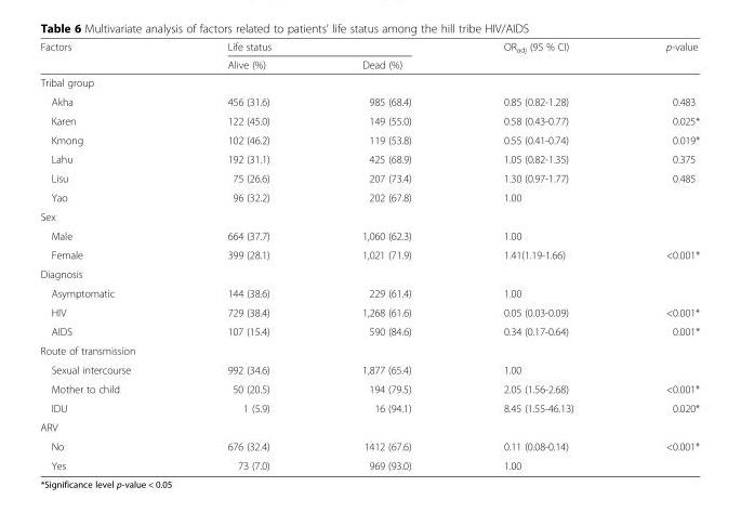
<table><thead><tr><td rowspan="2">Factors</td><td colspan="2">Life status</td><td rowspan="2">OR<sub>adj</sub> (95 % CI)</td><td rowspan="2">p-value</td></tr><tr><td>Alive (%)</td><td>Dead (%)</td></tr></thead><tbody><tr><td colspan="5">Tribal group</td></tr><tr><td>Akha</td><td>456 (31.6)</td><td>985 (68.4)</td><td>0.85 (0.82-1.28)</td><td>0.483</td></tr><tr><td>Karen</td><td>122 (45.0)</td><td>149 (55.0)</td><td>0.58 (0.43-0.77)</td><td>0.025*</td></tr><tr><td>Kmong</td><td>102 (46.2)</td><td>119 (53.8)</td><td>0.55 (0.41-0.74)</td><td>0.019*</td></tr><tr><td>Lahu</td><td>192 (31.1)</td><td>425 (68.9)</td><td>1.05 (0.82-1.35)</td><td>0.375</td></tr><tr><td>Lisu</td><td>75 (26.6)</td><td>207 (73.4)</td><td>1.30 (0.97-1.77)</td><td>0.485</td></tr><tr><td>Yao</td><td>96 (32.2)</td><td>202 (67.8)</td><td>1.00</td><td></td></tr><tr><td colspan="5">Sex</td></tr><tr><td>Male</td><td>664 (37.7)</td><td>1,060 (62.3)</td><td>1.00</td><td></td></tr><tr><td>Female</td><td>399 (28.1)</td><td>1,021 (71.9)</td><td>1.41(1.19-1.66)</td><td>&lt;0.001*</td></tr><tr><td colspan="5">Diagnosis</td></tr><tr><td>Asymptomatic</td><td>144 (38.6)</td><td>229 (61.4)</td><td>1.00</td><td></td></tr><tr><td>HIV</td><td>729 (38.4)</td><td>1,268 (61.6)</td><td>0.05 (0.03-0.09)</td><td>&lt;0.001*</td></tr><tr><td>AIDS</td><td>107 (15.4)</td><td>590 (84.6)</td><td>0.34 (0.17-0.64)</td><td>0.001*</td></tr><tr><td colspan="5">Route of transmission</td></tr><tr><td>Sexual intercourse</td><td>992 (34.6)</td><td>1,877 (65.4)</td><td>1.00</td><td></td></tr><tr><td>Mother to child</td><td>50 (20.5)</td><td>194 (79.5)</td><td>2.05 (1.56-2.68)</td><td>&lt;0.001*</td></tr><tr><td>IDU</td><td>1 (5.9)</td><td>16 (94.1)</td><td>8.45 (1.55-46.13)</td><td>0.020*</td></tr><tr><td colspan="5">ARV</td></tr><tr><td>No</td><td>676 (32.4)</td><td>1412 (67.6)</td><td>0.11 (0.08-0.14)</td><td>&lt;0.001*</td></tr><tr><td>Yes</td><td>73 (7.0)</td><td>969 (93.0)</td><td>1.00</td><td></td></tr></tbody></table>